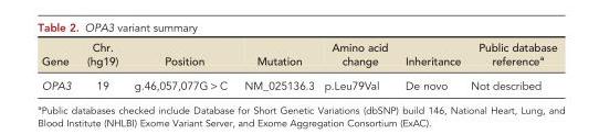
<table><thead><tr><td>Gene</td><td>Chr. (hg19)</td><td>Position</td><td>Mutation</td><td>Amino acid change</td><td>Inheritance</td><td>Public database reference<sup>a</sup></td></tr></thead><tbody><tr><td>OPA3</td><td>19</td><td>g.46,057,077G &gt; C</td><td>NM_025136.3</td><td>p.Leu79Val</td><td>De novo</td><td>Not described</td></tr></tbody></table>